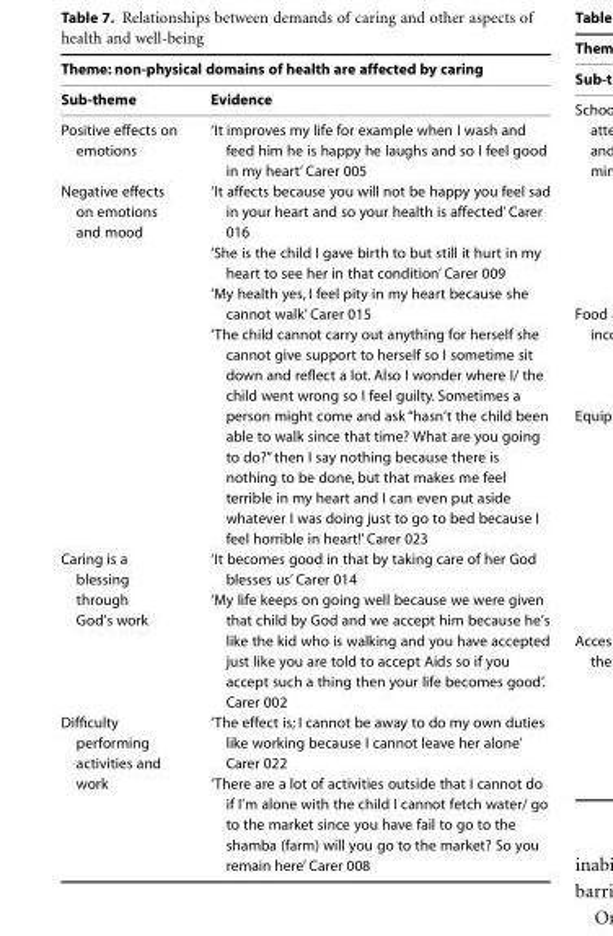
<table><thead><tr><td colspan="2">Theme: non-physical domains of health are affected by caring</td></tr><tr><td>Sub-theme</td><td>Evidence</td></tr></thead><tbody><tr><td>Positive effects on emotions</td><td>‘It improves my life for example when I wash and feed him he is happy he laughs and so I feel good in my heart’ Carer 005</td></tr><tr><td rowspan="4">Negative effects on emotions and mood</td><td>‘It affects because you will not be happy you feel sad in your heart and so your health is affected’ Carer 016</td></tr><tr><td>‘She is the child I gave birth to but still it hurt in my heart to see her in that condition’ Carer 009</td></tr><tr><td>‘My health yes, I feel pity in my heart because she cannot walk’ Carer 015</td></tr><tr><td>‘The child cannot carry out anything for herself she cannot give support to herself so I sometime sit down and reflect a lot. Also I wonder where I/ the child went wrong so I feel guilty. Sometimes a person might come and ask “hasn’t the child been able to walk since that time? What are you going to do?” then I say nothing because there is nothing to be done, but that makes me feel terrible in my heart and I can even put aside whatever I was doing just to go to bed because I feel horrible in heart!’ Carer 023</td></tr><tr><td rowspan="2">Caring is a blessing through God’s work</td><td>‘It becomes good in that by taking care of her God blesses us’ Carer 014</td></tr><tr><td>‘My life keeps on going well because we were given that child by God and we accept him because he’s like the kid who is walking and you have accepted just like you are told to accept Aids so if you accept such a thing then your life becomes good’. Carer 002</td></tr><tr><td rowspan="2">Difficulty performing activities and work</td><td>‘The effect is; I cannot be away to do my own duties like working because I cannot leave her alone’ Carer 022</td></tr><tr><td>‘There are a lot of activities outside that I cannot do if I’m alone with the child I cannot fetch water/ go to the market since you have fail to go to the shamba (farm) will you go to the market? So you remain here’ Carer 008</td></tr></tbody></table>